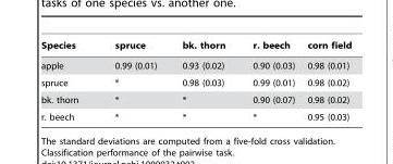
<table><thead><tr><td>Species</td><td>spruce</td><td>bk. thorn</td><td>r. beech</td><td>corn field</td></tr></thead><tbody><tr><td>apple</td><td>0.99 (0.01)</td><td>0.93 (0.02)</td><td>0.90 (0.03)</td><td>0.98 (0.01)</td></tr><tr><td>spruce</td><td>*</td><td>0.98 (0.03)</td><td>0.99 (0.01)</td><td>0.98 (0.02)</td></tr><tr><td>bk. thorn</td><td>*</td><td>*</td><td>0.90 (0.07)</td><td>0.98 (0.02)</td></tr><tr><td>r. beech</td><td>*</td><td>*</td><td>*</td><td>0.95 (0.03)</td></tr></tbody></table>